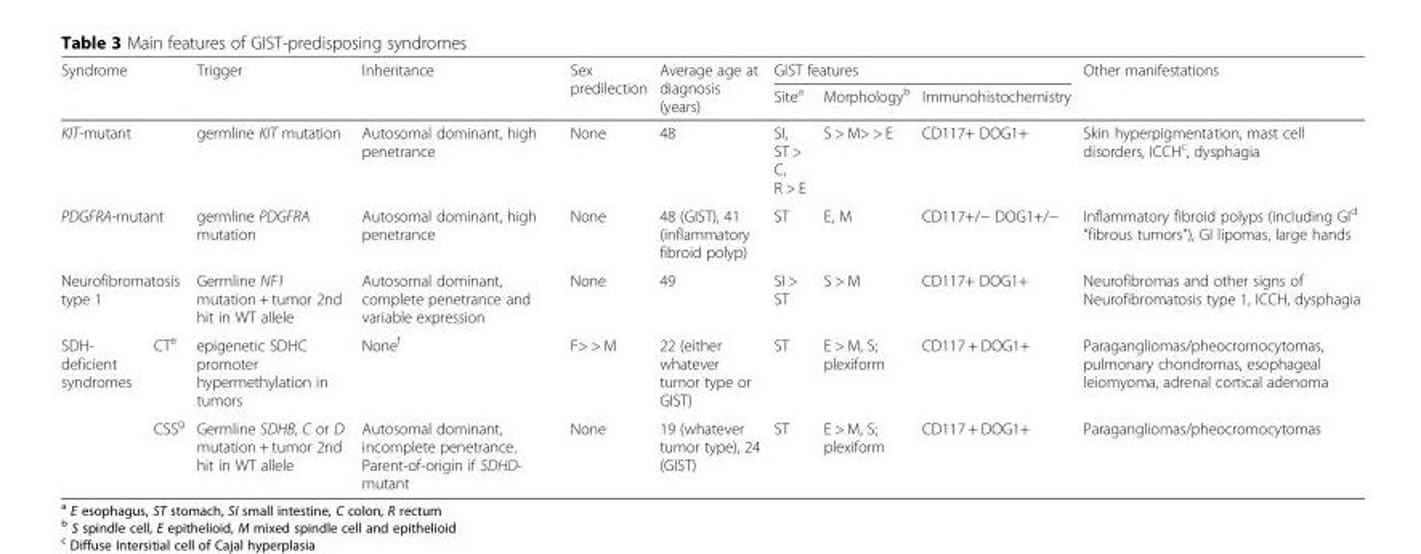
<table><thead><tr><td rowspan="2" colspan="2">Syndrome</td><td rowspan="2">Trigger</td><td rowspan="2">Inheritance</td><td rowspan="2">Sex predilection</td><td rowspan="2">Average age at diagnosis (years)</td><td colspan="3">GIST features</td><td rowspan="2">Other manifestations</td></tr><tr><td>Site<sup>a</sup></td><td>Morphology<sup>b</sup></td><td>Immunohistochemistry</td></tr></thead><tbody><tr><td colspan="2">KIT-mutant</td><td>germline KIT mutation</td><td>Autosomal dominant, high penetrance</td><td>None</td><td>48</td><td>SI, ST &gt; C, R &gt; E</td><td>S &gt; M&gt; &gt; E</td><td>CD117+ DOG1+</td><td>Skin hyperpigmentation, mast cell disorders, ICCH<sup>c</sup>, dysphagia</td></tr><tr><td colspan="2">PDGFRA-mutant</td><td>germline PDGFRA mutation</td><td>Autosomal dominant, high penetrance</td><td>None</td><td>48 (GIST), 41 (inflammatory fibroid polyp)</td><td>ST</td><td>E, M</td><td>CD117+/− DOG1+/−</td><td>Inflammatory fibroid polyps (including GI<sup>d</sup> “fibrous tumors”), GI lipomas, large hands</td></tr><tr><td colspan="2">Neurofibromatosis type 1</td><td>Germline NF1 mutation + tumor 2nd hit in WT allele</td><td>Autosomal dominant, complete penetrance and variable expression</td><td>None</td><td>49</td><td>SI &gt; ST</td><td>S &gt; M</td><td>CD117+ DOG1+</td><td>Neurofibromas and other signs of Neurofibromatosis type 1, ICCH, dysphagia</td></tr><tr><td rowspan="2">SDH- deficient syndromes</td><td>CT<sup>e</sup></td><td>epigenetic SDHC promoter hypermethylation in tumors</td><td>None<sup>f</sup></td><td>F&gt; &gt; M</td><td>22 (either whatever tumor type or GIST)</td><td>ST</td><td>E &gt; M, S; plexiform</td><td>CD117 + DOG1+</td><td>Paragangliomas/pheocromocytomas, pulmonary chondromas, esophageal leiomyoma, adrenal cortical adenoma</td></tr><tr><td>CSS<sup>g</sup></td><td>Germline SDHB, C or D mutation + tumor 2nd hit in WT allele</td><td>Autosomal dominant, incomplete penetrance. Parent-of-origin if SDHD- mutant</td><td>None</td><td>19 (whatever tumor type), 24 (GIST)</td><td>ST</td><td>E &gt; M, S; plexiform</td><td>CD117 + DOG1+</td><td>Paragangliomas/pheocromocytomas</td></tr></tbody></table>